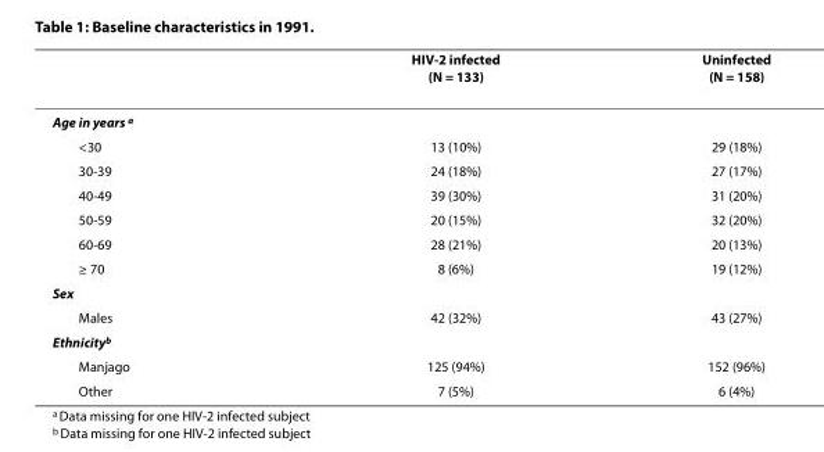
<table><thead><tr><td></td><td>HIV-2 infected (N = 133)</td><td>Uninfected (N = 158)</td></tr></thead><tbody><tr><td colspan="3">Age in years <sup>a</sup></td></tr><tr><td>&lt;30</td><td>13 (10%)</td><td>29 (18%)</td></tr><tr><td>30-39</td><td>24 (18%)</td><td>27 (17%)</td></tr><tr><td>40-49</td><td>39 (30%)</td><td>31 (20%)</td></tr><tr><td>50-59</td><td>20 (15%)</td><td>32 (20%)</td></tr><tr><td>60-69</td><td>28 (21%)</td><td>20 (13%)</td></tr><tr><td>≥ 70</td><td>8 (6%)</td><td>19 (12%)</td></tr><tr><td colspan="3">Sex</td></tr><tr><td>Males</td><td>42 (32%)</td><td>43 (27%)</td></tr><tr><td colspan="3">Ethnicity<sup>b</sup></td></tr><tr><td>Manjago</td><td>125 (94%)</td><td>152 (96%)</td></tr><tr><td>Other</td><td>7 (5%)</td><td>6 (4%)</td></tr></tbody></table>